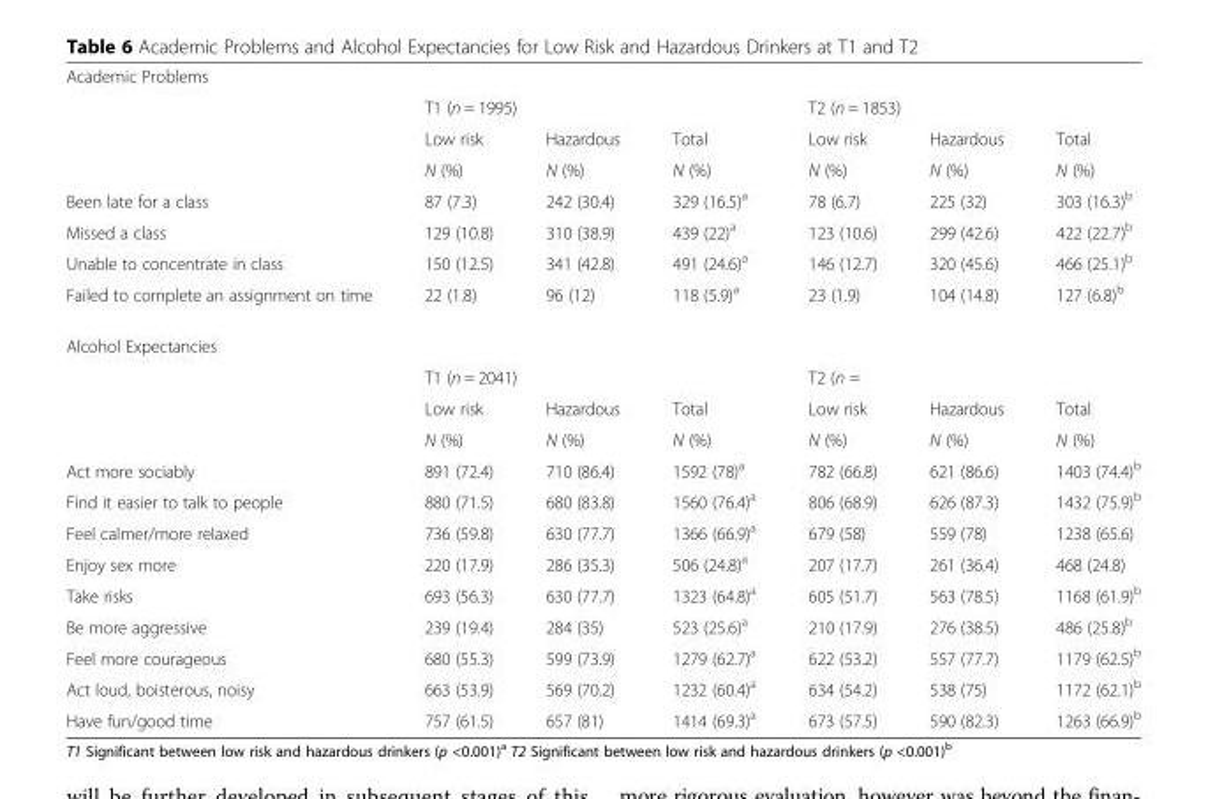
<table><tbody><tr><td colspan="7">Academic Problems</td></tr><tr><td></td><td colspan="3">T1 (n = 1995)</td><td colspan="3">T2 (n = 1853)</td></tr><tr><td rowspan="2"></td><td>Low risk</td><td>Hazardous</td><td>Total</td><td>Low risk</td><td>Hazardous</td><td>Total</td></tr><tr><td>N (%)</td><td>N (%)</td><td>N (%)</td><td>N (%)</td><td>N (%)</td><td>N (%)</td></tr><tr><td>Been late for a class</td><td>87 (7.3)</td><td>242 (30.4)</td><td>329 (16.5)<sup>a</sup></td><td>78 (6.7)</td><td>225 (32)</td><td>303 (16.3)<sup>b</sup></td></tr><tr><td>Missed a class</td><td>129 (10.8)</td><td>310 (38.9)</td><td>439 (22)<sup>a</sup></td><td>123 (10.6)</td><td>299 (42.6)</td><td>422 (22.7)<sup>b</sup></td></tr><tr><td>Unable to concentrate in class</td><td>150 (12.5)</td><td>341 (42.8)</td><td>491 (24.6)<sup>a</sup></td><td>146 (12.7)</td><td>320 (45.6)</td><td>466 (25.1)<sup>b</sup></td></tr><tr><td>Failed to complete an assignment on time</td><td>22 (1.8)</td><td>96 (12)</td><td>118 (5.9)<sup>a</sup></td><td>23 (1.9)</td><td>104 (14.8)</td><td>127 (6.8)<sup>b</sup></td></tr><tr><td colspan="7">Alcohol Expectancies</td></tr><tr><td></td><td colspan="3">T1 (n = 2041)</td><td colspan="3">T2 (n =</td></tr><tr><td rowspan="2"></td><td>Low risk</td><td>Hazardous</td><td>Total</td><td>Low risk</td><td>Hazardous</td><td>Total</td></tr><tr><td>N (%)</td><td>N (%)</td><td>N (%)</td><td>N (%)</td><td>N (%)</td><td>N (%)</td></tr><tr><td>Act more sociably</td><td>891 (72.4)</td><td>710 (86.4)</td><td>1592 (78)<sup>a</sup></td><td>782 (66.8)</td><td>621 (86.6)</td><td>1403 (74.4)<sup>b</sup></td></tr><tr><td>Find it easier to talk to people</td><td>880 (71.5)</td><td>680 (83.8)</td><td>1560 (76.4)<sup>a</sup></td><td>806 (68.9)</td><td>626 (87.3)</td><td>1432 (75.9)<sup>b</sup></td></tr><tr><td>Feel calmer/more relaxed</td><td>736 (59.8)</td><td>630 (77.7)</td><td>1366 (66.9)<sup>a</sup></td><td>679 (58)</td><td>559 (78)</td><td>1238 (65.6)</td></tr><tr><td>Enjoy sex more</td><td>220 (17.9)</td><td>286 (35.3)</td><td>506 (24.8)<sup>a</sup></td><td>207 (17.7)</td><td>261 (36.4)</td><td>468 (24.8)</td></tr><tr><td>Take risks</td><td>693 (56.3)</td><td>630 (77.7)</td><td>1323 (64.8)<sup>a</sup></td><td>605 (51.7)</td><td>563 (78.5)</td><td>1168 (61.9)<sup>b</sup></td></tr><tr><td>Be more aggressive</td><td>239 (19.4)</td><td>284 (35)</td><td>523 (25.6)<sup>a</sup></td><td>210 (17.9)</td><td>276 (38.5)</td><td>486 (25.8)<sup>b</sup></td></tr><tr><td>Feel more courageous</td><td>680 (55.3)</td><td>599 (73.9)</td><td>1279 (62.7)<sup>a</sup></td><td>622 (53.2)</td><td>557 (77.7)</td><td>1179 (62.5)<sup>b</sup></td></tr><tr><td>Act loud, boisterous, noisy</td><td>663 (53.9)</td><td>569 (70.2)</td><td>1232 (60.4)<sup>a</sup></td><td>634 (54.2)</td><td>538 (75)</td><td>1172 (62.1)<sup>b</sup></td></tr><tr><td>Have fun/good time</td><td>757 (61.5)</td><td>657 (81)</td><td>1414 (69.3)<sup>a</sup></td><td>673 (57.5)</td><td>590 (82.3)</td><td>1263 (66.9)<sup>b</sup></td></tr></tbody></table>